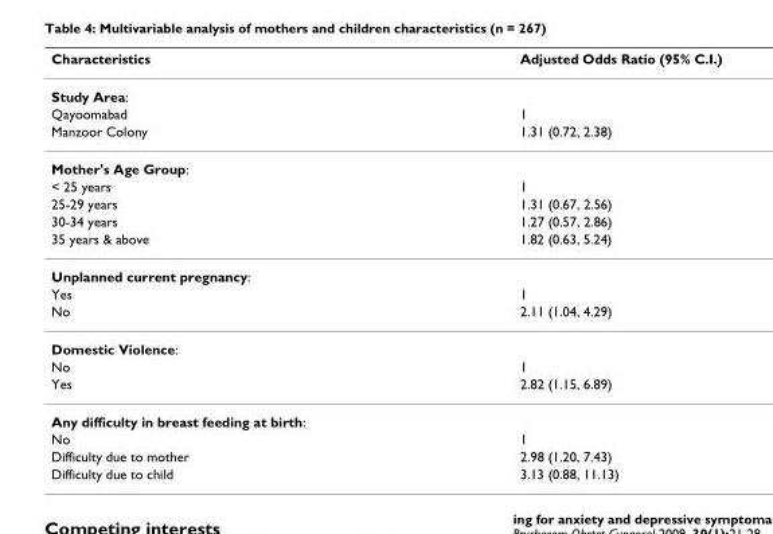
<table><thead><tr><td>Characteristics</td><td>Adjusted Odds Ratio (95% C.I.)</td></tr></thead><tbody><tr><td colspan="2">Study Area:</td></tr><tr><td>Qayoomabad</td><td>1</td></tr><tr><td>Manzoor Colony</td><td>1.31 (0.72, 2.38)</td></tr><tr><td colspan="2">Mother&#x27;s Age Group:</td></tr><tr><td>&lt; 25 years</td><td>1</td></tr><tr><td>25-29 years</td><td>1.31 (0.67, 2.56)</td></tr><tr><td>30-34 years</td><td>1.27 (0.57, 2.86)</td></tr><tr><td>35 years &amp; above</td><td>1.82 (0.63, 5.24)</td></tr><tr><td colspan="2">Unplanned current pregnancy:</td></tr><tr><td>Yes</td><td>1</td></tr><tr><td>No</td><td>2.11 (1.04, 4.29)</td></tr><tr><td colspan="2">Domestic Violence:</td></tr><tr><td>No</td><td>1</td></tr><tr><td>Yes</td><td>2.82 (1.15, 6.89)</td></tr><tr><td colspan="2">Any difficulty in breast feeding at birth:</td></tr><tr><td>No</td><td>1</td></tr><tr><td>Difficulty due to mother</td><td>2.98 (1.20, 7.43)</td></tr><tr><td>Difficulty due to child</td><td>3.13 (0.88, 11.13)</td></tr></tbody></table>